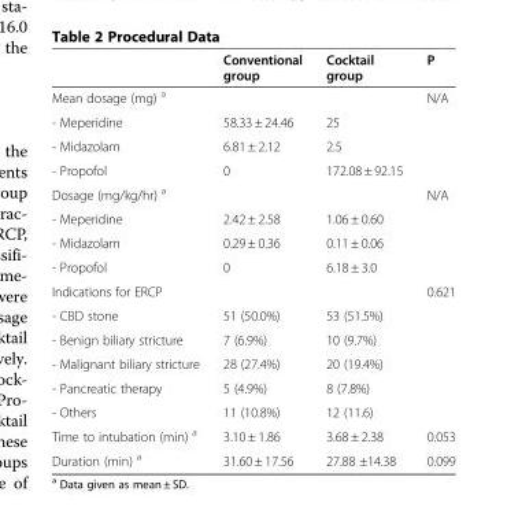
<table><thead><tr><td></td><td>Conventional group</td><td>Cocktail group</td><td>P</td></tr></thead><tbody><tr><td>Mean dosage (mg) <sup>a</sup></td><td></td><td></td><td>N/A</td></tr><tr><td>- Meperidine</td><td>58.33 ± 24.46</td><td>25</td><td></td></tr><tr><td>- Midazolam</td><td>6.81 ± 2.12</td><td>2.5</td><td></td></tr><tr><td>- Propofol</td><td>0</td><td>172.08 ± 92.15</td><td></td></tr><tr><td>Dosage (mg/kg/hr) <sup>a</sup></td><td></td><td></td><td>N/A</td></tr><tr><td>- Meperidine</td><td>2.42 ± 2.58</td><td>1.06 ± 0.60</td><td></td></tr><tr><td>- Midazolam</td><td>0.29 ± 0.36</td><td>0.11 ± 0.06</td><td></td></tr><tr><td>- Propofol</td><td>0</td><td>6.18 ± 3.0</td><td></td></tr><tr><td>Indications for ERCP</td><td></td><td></td><td>0.621</td></tr><tr><td>- CBD stone</td><td>51 (50.0%)</td><td>53 (51.5%)</td><td></td></tr><tr><td>- Benign biliary stricture</td><td>7 (6.9%)</td><td>10 (9.7%)</td><td></td></tr><tr><td>- Malignant biliary stricture</td><td>28 (27.4%)</td><td>20 (19.4%)</td><td></td></tr><tr><td>- Pancreatic therapy</td><td>5 (4.9%)</td><td>8 (7.8%)</td><td></td></tr><tr><td>- Others</td><td>11 (10.8%)</td><td>12 (11.6)</td><td></td></tr><tr><td>Time to intubation (min) <sup>a</sup></td><td>3.10 ± 1.86</td><td>3.68 ± 2.38</td><td>0.053</td></tr><tr><td>Duration (min) <sup>a</sup></td><td>31.60 ± 17.56</td><td>27.88 ±14.38</td><td>0.099</td></tr></tbody></table>